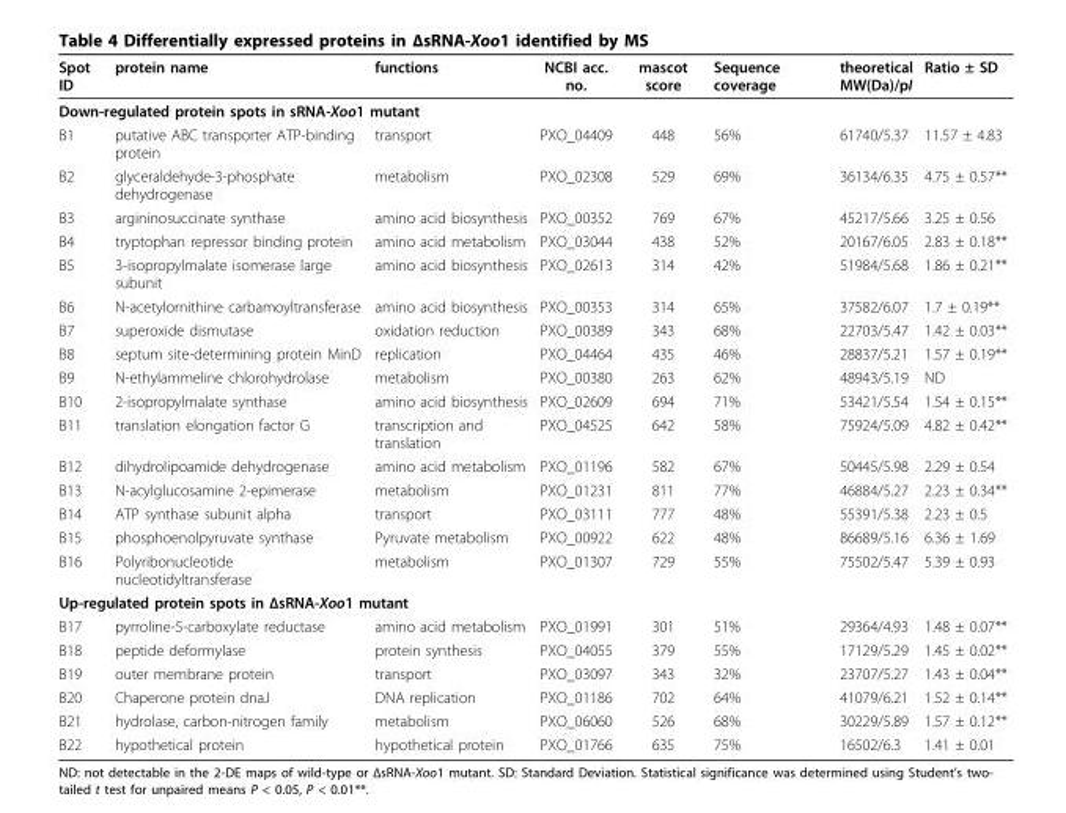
<table><thead><tr><td>Spot ID</td><td>protein name</td><td>functions</td><td>NCBI acc. no.</td><td>mascot score</td><td>Sequence coverage</td><td>theoretical MW(Da)/pI</td><td>Ratio ± SD</td></tr></thead><tbody><tr><td colspan="8">Down-regulated protein spots in sRNA-Xoo1 mutant</td></tr><tr><td>B1</td><td>putative ABC transporter ATP-binding protein</td><td>transport</td><td>PXO_04409</td><td>448</td><td>56%</td><td>61740/5.37</td><td>11.57 ± 4.83</td></tr><tr><td>B2</td><td>glyceraldehyde-3-phosphate dehydrogenase</td><td>metabolism</td><td>PXO_02308</td><td>529</td><td>69%</td><td>36134/6.35</td><td>4.75 ± 0.57**</td></tr><tr><td>B3</td><td>argininosuccinate synthase</td><td>amino acid biosynthesis</td><td>PXO_00352</td><td>769</td><td>67%</td><td>45217/5.66</td><td>3.25 ± 0.56</td></tr><tr><td>B4</td><td>tryptophan repressor binding protein</td><td>amino acid metabolism</td><td>PXO_03044</td><td>438</td><td>52%</td><td>20167/6.05</td><td>2.83 ± 0.18**</td></tr><tr><td>B5</td><td>3-isopropylmalate isomerase large subunit</td><td>amino acid biosynthesis</td><td>PXO_02613</td><td>314</td><td>42%</td><td>51984/5.68</td><td>1.86 ± 0.21**</td></tr><tr><td>B6</td><td>N-acetylornithine carbamoyltransferase</td><td>amino acid biosynthesis</td><td>PXO_00353</td><td>314</td><td>65%</td><td>37582/6.07</td><td>1.7 ± 0.19**</td></tr><tr><td>B7</td><td>superoxide dismutase</td><td>oxidation reduction</td><td>PXO_00389</td><td>343</td><td>68%</td><td>22703/5.47</td><td>1.42 ± 0.03**</td></tr><tr><td>B8</td><td>septum site-determining protein MinD</td><td>replication</td><td>PXO_04464</td><td>435</td><td>46%</td><td>28837/5.21</td><td>1.57 ± 0.19**</td></tr><tr><td>B9</td><td>N-ethylammeline chlorohydrolase</td><td>metabolism</td><td>PXO_00380</td><td>263</td><td>62%</td><td>48943/5.19</td><td>ND</td></tr><tr><td>B10</td><td>2-isopropylmalate synthase</td><td>amino acid biosynthesis</td><td>PXO_02609</td><td>694</td><td>71%</td><td>53421/5.54</td><td>1.54 ± 0.15**</td></tr><tr><td>B11</td><td>translation elongation factor G</td><td>transcription and translation</td><td>PXO_04525</td><td>642</td><td>58%</td><td>75924/5.09</td><td>4.82 ± 0.42**</td></tr><tr><td>B12</td><td>dihydrolipoamide dehydrogenase</td><td>amino acid metabolism</td><td>PXO_01196</td><td>582</td><td>67%</td><td>50445/5.98</td><td>2.29 ± 0.54</td></tr><tr><td>B13</td><td>N-acylglucosamine 2-epimerase</td><td>metabolism</td><td>PXO_01231</td><td>811</td><td>77%</td><td>46884/5.27</td><td>2.23 ± 0.34**</td></tr><tr><td>B14</td><td>ATP synthase subunit alpha</td><td>transport</td><td>PXO_03111</td><td>777</td><td>48%</td><td>55391/5.38</td><td>2.23 ± 0.5</td></tr><tr><td>B15</td><td>phosphoenolpyruvate synthase</td><td>Pyruvate metabolism</td><td>PXO_00922</td><td>622</td><td>48%</td><td>86689/5.16</td><td>6.36 ± 1.69</td></tr><tr><td>B16</td><td>Polyribonucleotide nucleotidyltransferase</td><td>metabolism</td><td>PXO_01307</td><td>729</td><td>55%</td><td>75502/5.47</td><td>5.39 ± 0.93</td></tr><tr><td colspan="8">Up-regulated protein spots in ΔsRNA-Xoo1 mutant</td></tr><tr><td>B17</td><td>pyrroline-5-carboxylate reductase</td><td>amino acid metabolism</td><td>PXO_01991</td><td>301</td><td>51%</td><td>29364/4.93</td><td>1.48 ± 0.07**</td></tr><tr><td>B18</td><td>peptide deformylase</td><td>protein synthesis</td><td>PXO_04055</td><td>379</td><td>55%</td><td>17129/5.29</td><td>1.45 ± 0.02**</td></tr><tr><td>B19</td><td>outer membrane protein</td><td>transport</td><td>PXO_03097</td><td>343</td><td>32%</td><td>23707/5.27</td><td>1.43 ± 0.04**</td></tr><tr><td>B20</td><td>Chaperone protein dnaJ</td><td>DNA replication</td><td>PXO_01186</td><td>702</td><td>64%</td><td>41079/6.21</td><td>1.52 ± 0.14**</td></tr><tr><td>B21</td><td>hydrolase, carbon-nitrogen family</td><td>metabolism</td><td>PXO_06060</td><td>526</td><td>68%</td><td>30229/5.89</td><td>1.57 ± 0.12**</td></tr><tr><td>B22</td><td>hypothetical protein</td><td>hypothetical protein</td><td>PXO_01766</td><td>635</td><td>75%</td><td>16502/6.3</td><td>1.41 ± 0.01</td></tr></tbody></table>